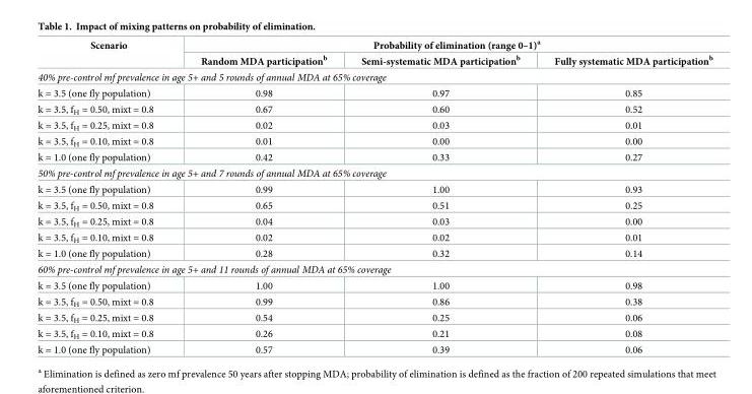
<table><thead><tr><td rowspan="2">Scenario</td><td colspan="3">Probability of elimination (range 0–1)<sup>a</sup></td></tr><tr><td>Random MDA participation<sup>b</sup></td><td>Semi-systematic MDA participation<sup>b</sup></td><td>Fully systematic MDA participation<sup>b</sup></td></tr></thead><tbody><tr><td colspan="4">40% pre-control mf prevalence in age 5+ and 5 rounds of annual MDA at 65% coverage</td></tr><tr><td>k = 3.5 (one fly population)</td><td>0.98</td><td>0.97</td><td>0.85</td></tr><tr><td>k = 3.5, f<sub>H</sub> = 0.50, mixt = 0.8</td><td>0.67</td><td>0.60</td><td>0.52</td></tr><tr><td>k = 3.5, f<sub>H</sub> = 0.25, mixt = 0.8</td><td>0.02</td><td>0.03</td><td>0.01</td></tr><tr><td>k = 3.5, f<sub>H</sub> = 0.10, mixt = 0.8</td><td>0.01</td><td>0.00</td><td>0.00</td></tr><tr><td>k = 1.0 (one fly population)</td><td>0.42</td><td>0.33</td><td>0.27</td></tr><tr><td colspan="4">50% pre-control mf prevalence in age 5+ and 7 rounds of annual MDA at 65% coverage</td></tr><tr><td>k = 3.5 (one fly population)</td><td>0.99</td><td>1.00</td><td>0.93</td></tr><tr><td>k = 3.5, f<sub>H</sub> = 0.50, mixt = 0.8</td><td>0.65</td><td>0.51</td><td>0.25</td></tr><tr><td>k = 3.5, f<sub>H</sub> = 0.25, mixt = 0.8</td><td>0.04</td><td>0.03</td><td>0.00</td></tr><tr><td>k = 3.5, f<sub>H</sub> = 0.10, mixt = 0.8</td><td>0.02</td><td>0.02</td><td>0.01</td></tr><tr><td>k = 1.0 (one fly population)</td><td>0.28</td><td>0.32</td><td>0.14</td></tr><tr><td colspan="4">60% pre-control mf prevalence in age 5+ and 11 rounds of annual MDA at 65% coverage</td></tr><tr><td>k = 3.5 (one fly population)</td><td>1.00</td><td>1.00</td><td>0.98</td></tr><tr><td>k = 3.5, f<sub>H</sub> = 0.50, mixt = 0.8</td><td>0.99</td><td>0.86</td><td>0.38</td></tr><tr><td>k = 3.5, f<sub>H</sub> = 0.25, mixt = 0.8</td><td>0.54</td><td>0.25</td><td>0.06</td></tr><tr><td>k = 3.5, f<sub>H</sub> = 0.10, mixt = 0.8</td><td>0.26</td><td>0.21</td><td>0.08</td></tr><tr><td>k = 1.0 (one fly population)</td><td>0.57</td><td>0.39</td><td>0.06</td></tr></tbody></table>